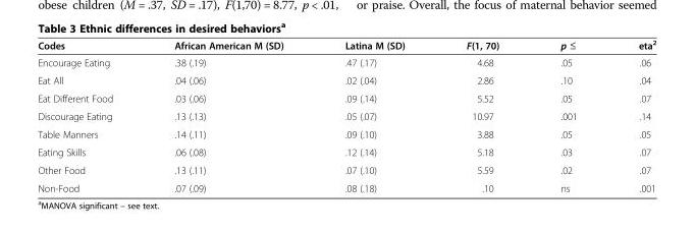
<table><thead><tr><td>Codes</td><td>African American M (SD)</td><td>Latina M (SD)</td><td>F(1, 70)</td><td>p ≤</td><td>eta<sup>2</sup></td></tr></thead><tbody><tr><td>Encourage Eating</td><td>.38 (.19)</td><td>.47 (.17)</td><td>4.68</td><td>.05</td><td>.06</td></tr><tr><td>Eat All</td><td>.04 (.06)</td><td>.02 (.04)</td><td>2.86</td><td>.10</td><td>.04</td></tr><tr><td>Eat Different Food</td><td>.03 (.06)</td><td>.09 (.14)</td><td>5.52</td><td>.05</td><td>.07</td></tr><tr><td>Discourage Eating</td><td>.13 (.13)</td><td>.05 (.07)</td><td>10.97</td><td>.001</td><td>.14</td></tr><tr><td>Table Manners</td><td>.14 (.11)</td><td>.09 (.10)</td><td>3.88</td><td>.05</td><td>.05</td></tr><tr><td>Eating Skills</td><td>.06 (.08)</td><td>.12 (.14)</td><td>5.18</td><td>.03</td><td>.07</td></tr><tr><td>Other Food</td><td>.13 (.11)</td><td>.07 (.10)</td><td>5.59</td><td>.02</td><td>.07</td></tr><tr><td>Non-Food</td><td>.07 (.09)</td><td>.08 (.18)</td><td>.10</td><td>ns</td><td>.001</td></tr></tbody></table>